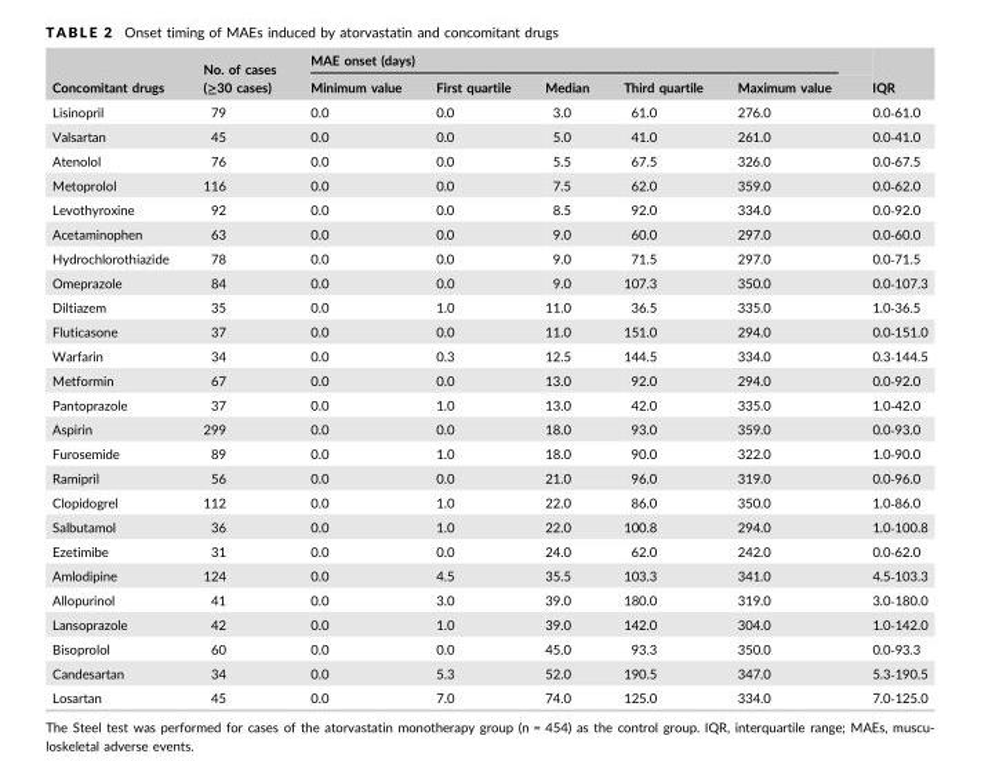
<table><thead><tr><td rowspan="2">Concomitant drugs</td><td rowspan="2">No. of cases (≥30 cases)</td><td colspan="5">MAE onset (days)</td><td rowspan="2">IQR</td></tr><tr><td>Minimum value</td><td>First quartile</td><td>Median</td><td>Third quartile</td><td>Maximum value</td></tr></thead><tbody><tr><td>Lisinopril</td><td>79</td><td>0.0</td><td>0.0</td><td>3.0</td><td>61.0</td><td>276.0</td><td>0.0‐61.0</td></tr><tr><td>Valsartan</td><td>45</td><td>0.0</td><td>0.0</td><td>5.0</td><td>41.0</td><td>261.0</td><td>0.0‐41.0</td></tr><tr><td>Atenolol</td><td>76</td><td>0.0</td><td>0.0</td><td>5.5</td><td>67.5</td><td>326.0</td><td>0.0‐67.5</td></tr><tr><td>Metoprolol</td><td>116</td><td>0.0</td><td>0.0</td><td>7.5</td><td>62.0</td><td>359.0</td><td>0.0‐62.0</td></tr><tr><td>Levothyroxine</td><td>92</td><td>0.0</td><td>0.0</td><td>8.5</td><td>92.0</td><td>334.0</td><td>0.0‐92.0</td></tr><tr><td>Acetaminophen</td><td>63</td><td>0.0</td><td>0.0</td><td>9.0</td><td>60.0</td><td>297.0</td><td>0.0‐60.0</td></tr><tr><td>Hydrochlorothiazide</td><td>78</td><td>0.0</td><td>0.0</td><td>9.0</td><td>71.5</td><td>297.0</td><td>0.0‐71.5</td></tr><tr><td>Omeprazole</td><td>84</td><td>0.0</td><td>0.0</td><td>9.0</td><td>107.3</td><td>350.0</td><td>0.0‐107.3</td></tr><tr><td>Diltiazem</td><td>35</td><td>0.0</td><td>1.0</td><td>11.0</td><td>36.5</td><td>335.0</td><td>1.0‐36.5</td></tr><tr><td>Fluticasone</td><td>37</td><td>0.0</td><td>0.0</td><td>11.0</td><td>151.0</td><td>294.0</td><td>0.0‐151.0</td></tr><tr><td>Warfarin</td><td>34</td><td>0.0</td><td>0.3</td><td>12.5</td><td>144.5</td><td>334.0</td><td>0.3‐144.5</td></tr><tr><td>Metformin</td><td>67</td><td>0.0</td><td>0.0</td><td>13.0</td><td>92.0</td><td>294.0</td><td>0.0‐92.0</td></tr><tr><td>Pantoprazole</td><td>37</td><td>0.0</td><td>1.0</td><td>13.0</td><td>42.0</td><td>335.0</td><td>1.0‐42.0</td></tr><tr><td>Aspirin</td><td>299</td><td>0.0</td><td>0.0</td><td>18.0</td><td>93.0</td><td>359.0</td><td>0.0‐93.0</td></tr><tr><td>Furosemide</td><td>89</td><td>0.0</td><td>1.0</td><td>18.0</td><td>90.0</td><td>322.0</td><td>1.0‐90.0</td></tr><tr><td>Ramipril</td><td>56</td><td>0.0</td><td>0.0</td><td>21.0</td><td>96.0</td><td>319.0</td><td>0.0‐96.0</td></tr><tr><td>Clopidogrel</td><td>112</td><td>0.0</td><td>1.0</td><td>22.0</td><td>86.0</td><td>350.0</td><td>1.0‐86.0</td></tr><tr><td>Salbutamol</td><td>36</td><td>0.0</td><td>1.0</td><td>22.0</td><td>100.8</td><td>294.0</td><td>1.0‐100.8</td></tr><tr><td>Ezetimibe</td><td>31</td><td>0.0</td><td>0.0</td><td>24.0</td><td>62.0</td><td>242.0</td><td>0.0‐62.0</td></tr><tr><td>Amlodipine</td><td>124</td><td>0.0</td><td>4.5</td><td>35.5</td><td>103.3</td><td>341.0</td><td>4.5‐103.3</td></tr><tr><td>Allopurinol</td><td>41</td><td>0.0</td><td>3.0</td><td>39.0</td><td>180.0</td><td>319.0</td><td>3.0‐180.0</td></tr><tr><td>Lansoprazole</td><td>42</td><td>0.0</td><td>1.0</td><td>39.0</td><td>142.0</td><td>304.0</td><td>1.0‐142.0</td></tr><tr><td>Bisoprolol</td><td>60</td><td>0.0</td><td>0.0</td><td>45.0</td><td>93.3</td><td>350.0</td><td>0.0‐93.3</td></tr><tr><td>Candesartan</td><td>34</td><td>0.0</td><td>5.3</td><td>52.0</td><td>190.5</td><td>347.0</td><td>5.3‐190.5</td></tr><tr><td>Losartan</td><td>45</td><td>0.0</td><td>7.0</td><td>74.0</td><td>125.0</td><td>334.0</td><td>7.0‐125.0</td></tr></tbody></table>